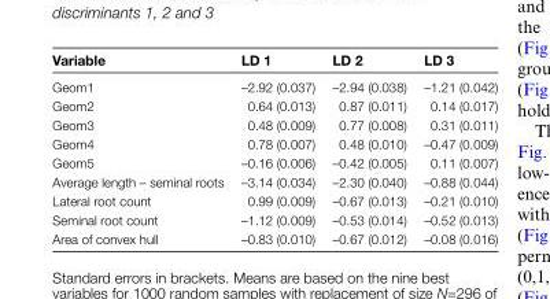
<table><thead><tr><td>Variable</td><td>LD 1</td><td>LD 2</td><td>LD 3</td></tr></thead><tbody><tr><td>Geom1</td><td>–2.92 (0.037)</td><td>–2.94 (0.038)</td><td>–1.21 (0.042)</td></tr><tr><td>Geom2</td><td>0.64 (0.013)</td><td>0.87 (0.011)</td><td>0.14 (0.017)</td></tr><tr><td>Geom3</td><td>0.48 (0.009)</td><td>0.77 (0.008)</td><td>0.31 (0.011)</td></tr><tr><td>Geom4</td><td>0.78 (0.007)</td><td>0.48 (0.010)</td><td>–0.47 (0.009)</td></tr><tr><td>Geom5</td><td>–0.16 (0.006)</td><td>–0.42 (0.005)</td><td>0.11 (0.007)</td></tr><tr><td>Average length – seminal roots</td><td>–3.14 (0.034)</td><td>–2.30 (0.040)</td><td>–0.88 (0.044)</td></tr><tr><td>Lateral root count</td><td>0.99 (0.009)</td><td>–0.67 (0.013)</td><td>–0.21 (0.010)</td></tr><tr><td>Seminal root count</td><td>–1.12 (0.009)</td><td>–0.53 (0.014)</td><td>–0.52 (0.013)</td></tr><tr><td>Area of convex hull</td><td>–0.83 (0.010)</td><td>–0.67 (0.012)</td><td>–0.08 (0.016)</td></tr></tbody></table>